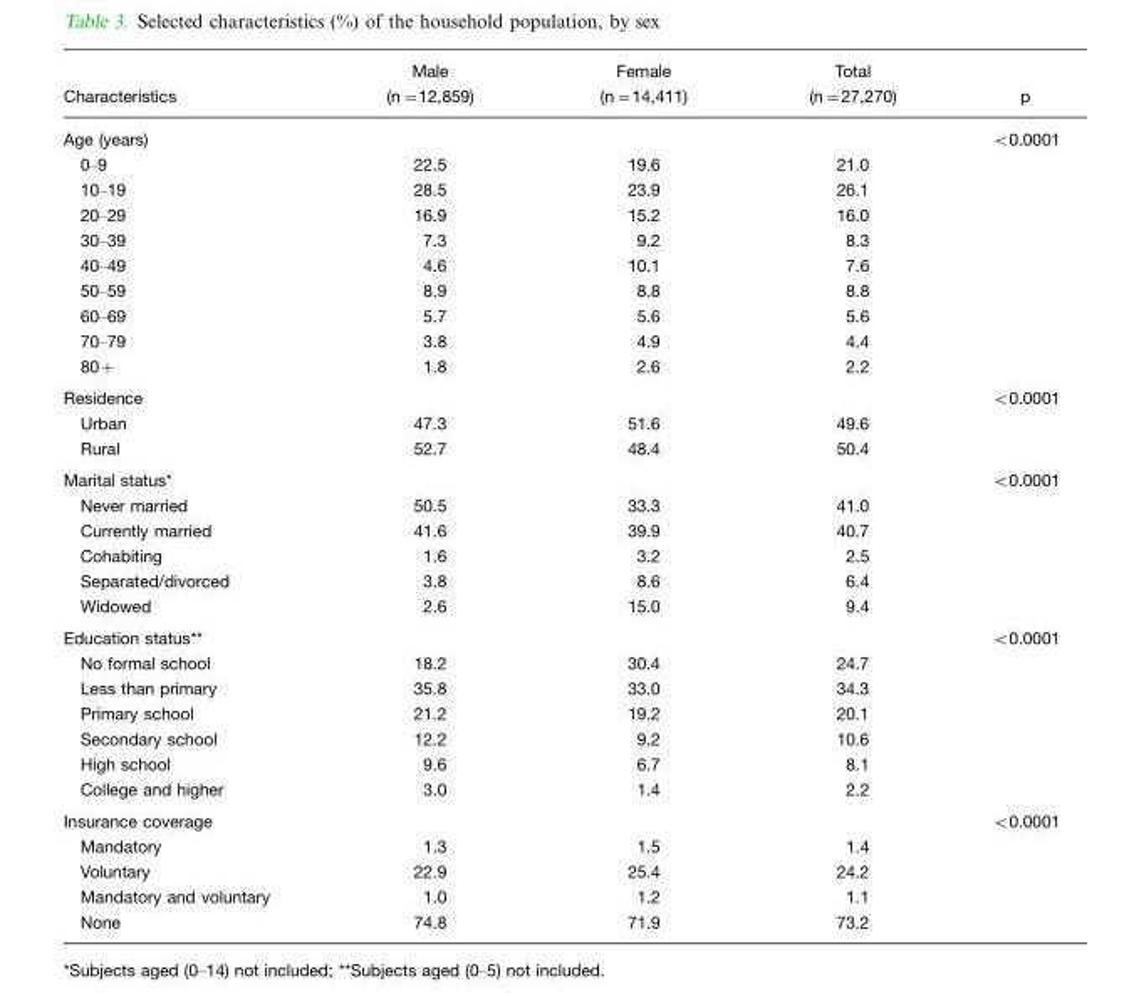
<table><thead><tr><td>Characteristics</td><td>Male (n=12,859)</td><td>Female (n=14,411)</td><td>Total (n=27,270)</td><td>p</td></tr></thead><tbody><tr><td>Age (years)</td><td></td><td></td><td></td><td>&lt;0.0001</td></tr><tr><td>0–9</td><td>22.5</td><td>19.6</td><td>21.0</td><td></td></tr><tr><td>10–19</td><td>28.5</td><td>23.9</td><td>26.1</td><td></td></tr><tr><td>20–29</td><td>16.9</td><td>15.2</td><td>16.0</td><td></td></tr><tr><td>30–39</td><td>7.3</td><td>9.2</td><td>8.3</td><td></td></tr><tr><td>40–49</td><td>4.6</td><td>10.1</td><td>7.6</td><td></td></tr><tr><td>50–59</td><td>8.9</td><td>8.8</td><td>8.8</td><td></td></tr><tr><td>60–69</td><td>5.7</td><td>5.6</td><td>5.6</td><td></td></tr><tr><td>70–79</td><td>3.8</td><td>4.9</td><td>4.4</td><td></td></tr><tr><td>80+</td><td>1.8</td><td>2.6</td><td>2.2</td><td></td></tr><tr><td>Residence</td><td></td><td></td><td></td><td>&lt;0.0001</td></tr><tr><td>Urban</td><td>47.3</td><td>51.6</td><td>49.6</td><td></td></tr><tr><td>Rural</td><td>52.7</td><td>48.4</td><td>50.4</td><td></td></tr><tr><td>Marital status*</td><td></td><td></td><td></td><td>&lt;0.0001</td></tr><tr><td>Never married</td><td>50.5</td><td>33.3</td><td>41.0</td><td></td></tr><tr><td>Currently married</td><td>41.6</td><td>39.9</td><td>40.7</td><td></td></tr><tr><td>Cohabiting</td><td>1.6</td><td>3.2</td><td>2.5</td><td></td></tr><tr><td>Separated/divorced</td><td>3.8</td><td>8.6</td><td>6.4</td><td></td></tr><tr><td>Widowed</td><td>2.6</td><td>15.0</td><td>9.4</td><td></td></tr><tr><td>Education status**</td><td></td><td></td><td></td><td>&lt;0.0001</td></tr><tr><td>No formal school</td><td>18.2</td><td>30.4</td><td>24.7</td><td></td></tr><tr><td>Less than primary</td><td>35.8</td><td>33.0</td><td>34.3</td><td></td></tr><tr><td>Primary school</td><td>21.2</td><td>19.2</td><td>20.1</td><td></td></tr><tr><td>Secondary school</td><td>12.2</td><td>9.2</td><td>10.6</td><td></td></tr><tr><td>High school</td><td>9.6</td><td>6.7</td><td>8.1</td><td></td></tr><tr><td>College and higher</td><td>3.0</td><td>1.4</td><td>2.2</td><td></td></tr><tr><td>Insurance coverage</td><td></td><td></td><td></td><td>&lt;0.0001</td></tr><tr><td>Mandatory</td><td>1.3</td><td>1.5</td><td>1.4</td><td></td></tr><tr><td>Voluntary</td><td>22.9</td><td>25.4</td><td>24.2</td><td></td></tr><tr><td>Mandatory and voluntary</td><td>1.0</td><td>1.2</td><td>1.1</td><td></td></tr><tr><td>None</td><td>74.8</td><td>71.9</td><td>73.2</td><td></td></tr></tbody></table>